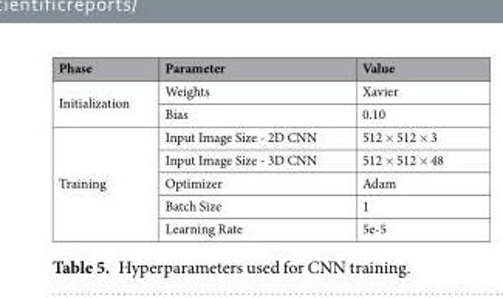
<table><thead><tr><td>Phase</td><td>Parameter</td><td>Value</td></tr></thead><tbody><tr><td rowspan="2">Initialization</td><td>Weights</td><td>Xavier</td></tr><tr><td>Bias</td><td>0.10</td></tr><tr><td rowspan="5">Training</td><td>Input Image Size - 2D CNN</td><td>512 × 512 × 3</td></tr><tr><td>Input Image Size - 3D CNN</td><td>512 × 512 × 48</td></tr><tr><td>Optimizer</td><td>Adam</td></tr><tr><td>Batch Size</td><td>1</td></tr><tr><td>Learning Rate</td><td>5e-5</td></tr></tbody></table>